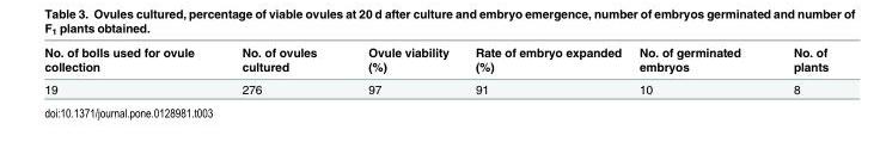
<table><thead><tr><td>No. of bolls used for ovule collection</td><td>No. of ovules cultured</td><td>Ovule viability (%)</td><td>Rate of embryo expanded (%)</td><td>No. of germinated embryos</td><td>No. of plants</td></tr></thead><tbody><tr><td>19</td><td>276</td><td>97</td><td>91</td><td>10</td><td>8</td></tr></tbody></table>